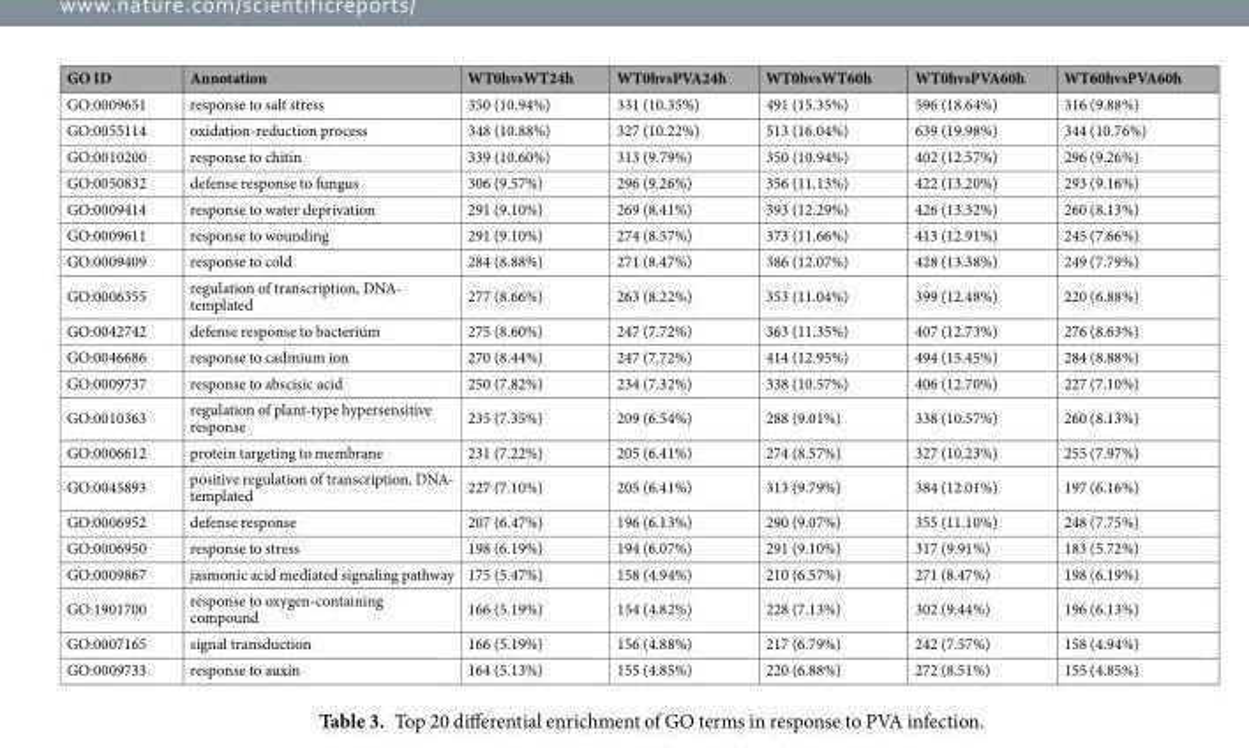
<table><thead><tr><td>GO ID</td><td>Annotation</td><td>WT0hvsWT24h</td><td>WT0hvsPVA24h</td><td>WT0hvsWT60h</td><td>WT0hvsPVA60h</td><td>WT60hvsPVA60h</td></tr></thead><tbody><tr><td>GO:0009651</td><td>response to salt stress</td><td>350 (10.94%)</td><td>331 (10.35%)</td><td>491 (15.35%)</td><td>596 (18.64%)</td><td>316 (9.88%)</td></tr><tr><td>GO:0055114</td><td>oxidation-reduction process</td><td>348 (10.88%)</td><td>327 (10.22%)</td><td>513 (16.04%)</td><td>639 (19.98%)</td><td>344 (10.76%)</td></tr><tr><td>GO:0010200</td><td>response to chitin</td><td>339 (10.60%)</td><td>313 (9.79%)</td><td>350 (10.94%)</td><td>402 (12.57%)</td><td>296 (9.26%)</td></tr><tr><td>GO:0050832</td><td>defense response to fungus</td><td>306 (9.57%)</td><td>296 (9.26%)</td><td>356 (11.13%)</td><td>422 (13.20%)</td><td>293 (9.16%)</td></tr><tr><td>GO:0009414</td><td>response to water deprivation</td><td>291 (9.10%)</td><td>269 (8.41%)</td><td>393 (12.29%)</td><td>426 (13.32%)</td><td>260 (8.13%)</td></tr><tr><td>GO:0009611</td><td>response to wounding</td><td>291 (9.10%)</td><td>274 (8.57%)</td><td>373 (11.66%)</td><td>413 (12.91%)</td><td>245 (7.66%)</td></tr><tr><td>GO:0009409</td><td>response to cold</td><td>284 (8.88%)</td><td>271 (8.47%)</td><td>386 (12.07%)</td><td>428 (13.38%)</td><td>249 (7.79%)</td></tr><tr><td>GO:0006355</td><td>regulation of transcription, DNA- templated</td><td>277 (8.66%)</td><td>263 (8.22%)</td><td>353 (11.04%)</td><td>399 (12.48%)</td><td>220 (6.88%)</td></tr><tr><td>GO:0042742</td><td>defense response to bacterium</td><td>275 (8.60%)</td><td>247 (7.72%)</td><td>363 (11.35%)</td><td>407 (12.73%)</td><td>276 (8.63%)</td></tr><tr><td>GO:0046686</td><td>response to cadmium ion</td><td>270 (8.44%)</td><td>247 (7.72%)</td><td>414 (12.95%)</td><td>494 (15.45%)</td><td>284 (8.88%)</td></tr><tr><td>GO:0009737</td><td>response to abscisic acid</td><td>250 (7.82%)</td><td>234 (7.32%)</td><td>338 (10.57%)</td><td>406 (12.70%)</td><td>227 (7.10%)</td></tr><tr><td>GO:0010363</td><td>regulation of plant-type hypersensitive response</td><td>235 (7.35%)</td><td>209 (6.54%)</td><td>288 (9.01%)</td><td>338 (10.57%)</td><td>260 (8.13%)</td></tr><tr><td>GO:0006612</td><td>protein targeting to membrane</td><td>231 (7.22%)</td><td>205 (6.41%)</td><td>274 (8.57%)</td><td>327 (10.23%)</td><td>255 (7.97%)</td></tr><tr><td>GO:0045893</td><td>positive regulation of transcription, DNA- templated</td><td>227 (7.10%)</td><td>205 (6.41%)</td><td>313 (9.79%)</td><td>384 (12.01%)</td><td>197 (6.16%)</td></tr><tr><td>GO:0006952</td><td>defense response</td><td>207 (6.47%)</td><td>196 (6.13%)</td><td>290 (9.07%)</td><td>355 (11.10%)</td><td>248 (7.75%)</td></tr><tr><td>GO:0006950</td><td>response to stress</td><td>198 (6.19%)</td><td>194 (6.07%)</td><td>291 (9.10%)</td><td>317 (9.91%)</td><td>183 (5.72%)</td></tr><tr><td>GO:0009867</td><td>jasmonic acid mediated signaling pathway</td><td>175 (5.47%)</td><td>158 (4.94%)</td><td>210 (6.57%)</td><td>271 (8.47%)</td><td>198 (6.19%)</td></tr><tr><td>GO:1901700</td><td>response to oxygen-containing compound</td><td>166 (5.19%)</td><td>154 (4.82%)</td><td>228 (7.13%)</td><td>302 (9.44%)</td><td>196 (6.13%)</td></tr><tr><td>GO:0007165</td><td>signal transduction</td><td>166 (5.19%)</td><td>156 (4.88%)</td><td>217 (6.79%)</td><td>242 (7.57%)</td><td>158 (4.94%)</td></tr><tr><td>GO:0009733</td><td>response to auxin</td><td>164 (5.13%)</td><td>155 (4.85%)</td><td>220 (6.88%)</td><td>272 (8.51%)</td><td>155 (4.85%)</td></tr></tbody></table>